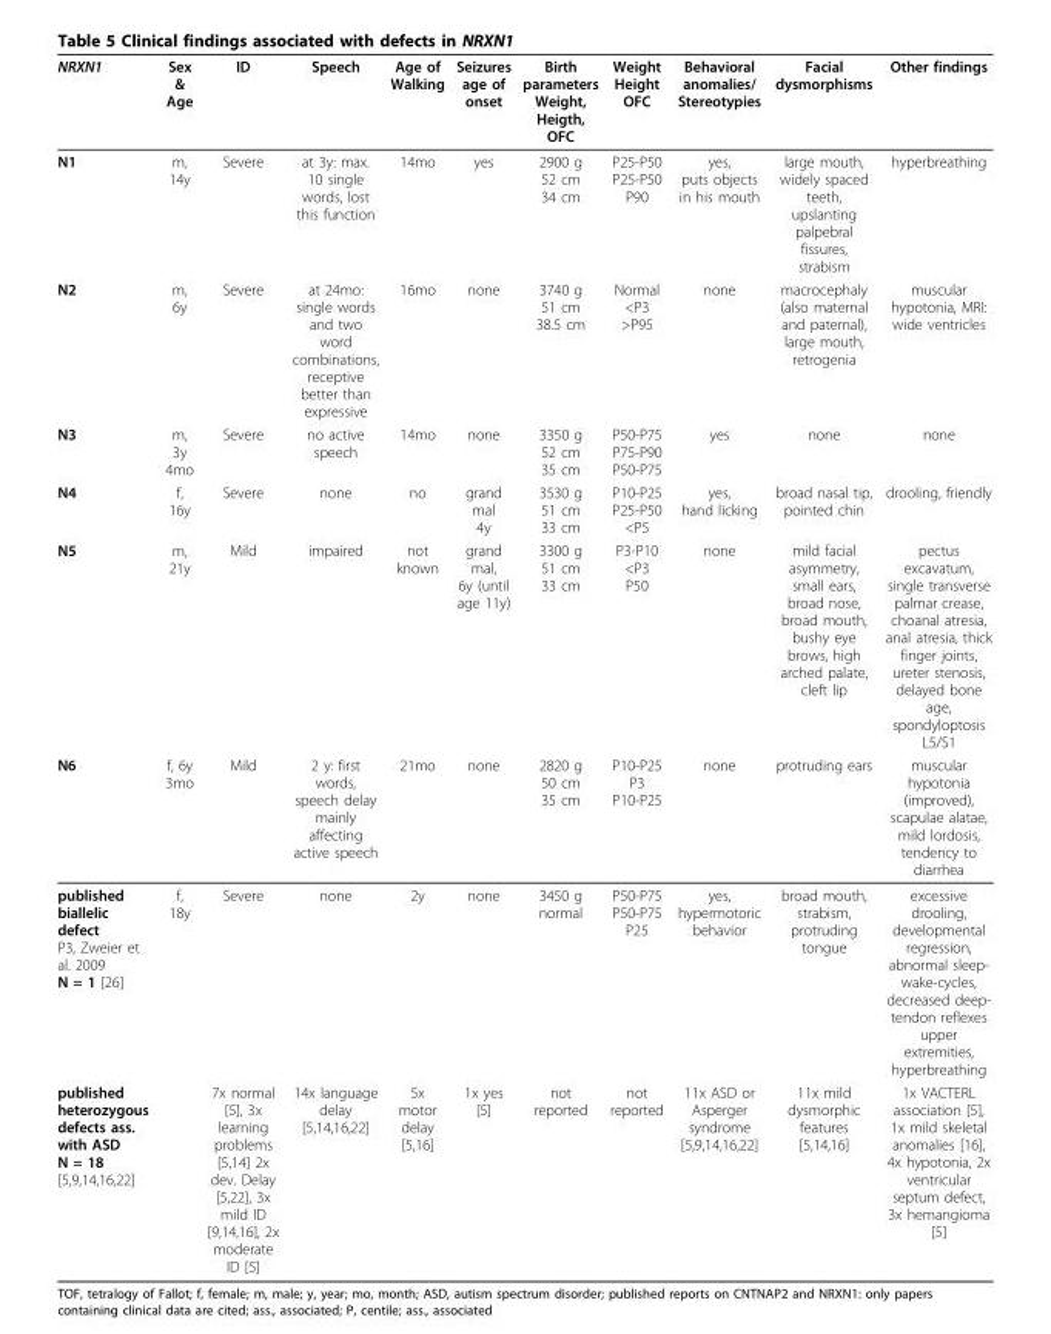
<table><thead><tr><td>NRXN1</td><td>Sex &amp; Age</td><td>ID</td><td>Speech</td><td>Age of Walking</td><td>Seizures age of onset</td><td>Birth parameters Weight, Heigth, OFC</td><td>Weight Height OFC</td><td>Behavioral anomalies/ Stereotypies</td><td>Facial dysmorphisms</td><td>Other findings</td></tr></thead><tbody><tr><td>N1</td><td>m, 14y</td><td>Severe</td><td>at 3y: max. 10 single words, lost this function</td><td>14mo</td><td>yes</td><td>2900 g 52 cm 34 cm</td><td>P25-P50 P25-P50 P90</td><td>yes, puts objects in his mouth</td><td>large mouth, widely spaced teeth, upslanting palpebral fissures, strabism</td><td>hyperbreathing</td></tr><tr><td>N2</td><td>m, 6y</td><td>Severe</td><td>at 24mo: single words and two word combinations, receptive better than expressive</td><td>16mo</td><td>none</td><td>3740 g 51 cm 38.5 cm</td><td>Normal &lt;P3 &gt;P95</td><td>none</td><td>macrocephaly (also maternal and paternal), large mouth, retrogenia</td><td>muscular hypotonia, MRI: wide ventricles</td></tr><tr><td>N3</td><td>m, 3y 4mo</td><td>Severe</td><td>no active speech</td><td>14mo</td><td>none</td><td>3350 g 52 cm 35 cm</td><td>P50-P75 P75-P90 P50-P75</td><td>yes</td><td>none</td><td>none</td></tr><tr><td>N4</td><td>f, 16y</td><td>Severe</td><td>none</td><td>no</td><td>grand mal 4y</td><td>3530 g 51 cm 33 cm</td><td>P10-P25 P25-P50 &lt;P5</td><td>yes, hand licking</td><td>broad nasal tip, pointed chin</td><td>drooling, friendly</td></tr><tr><td>N5</td><td>m, 21y</td><td>Mild</td><td>impaired</td><td>not known</td><td>grand mal, 6y (until age 11y)</td><td>3300 g 51 cm 33 cm</td><td>P3-P10 &lt;P3 P50</td><td>none</td><td>mild facial asymmetry, small ears, broad nose, broad mouth, bushy eye brows, high arched palate, cleft lip</td><td>pectus excavatum, single transverse palmar crease, choanal atresia, anal atresia, thick finger joints, ureter stenosis, delayed bone age, spondyloptosis L5/S1</td></tr><tr><td>N6</td><td>f, 6y 3mo</td><td>Mild</td><td>2 y: first words, speech delay mainly affecting active speech</td><td>21mo</td><td>none</td><td>2820 g 50 cm 35 cm</td><td>P10-P25 P3 P10-P25</td><td>none</td><td>protruding ears</td><td>muscular hypotonia (improved), scapulae alatae, mild lordosis, tendency to diarrhea</td></tr><tr><td>published biallelic defect P3, Zweier et al. 2009 N = 1 [26]</td><td>f, 18y</td><td>Severe</td><td>none</td><td>2y</td><td>none</td><td>3450 g normal</td><td>P50-P75 P50-P75 P25</td><td>yes, hypermotoric behavior</td><td>broad mouth, strabism, protruding tongue</td><td>excessive drooling, developmental regression, abnormal sleep- wake-cycles, decreased deep- tendon reflexes upper extremities, hyperbreathing</td></tr><tr><td>published heterozygous defects ass. with ASD N = 18 [5,9,14,16,22]</td><td></td><td>7x normal [5], 3x learning problems [5,14] 2x dev. Delay [5,22], 3x mild ID [9,14,16], 2x moderate ID [5]</td><td>14x language delay [5,14,16,22]</td><td>5x motor delay [5,16]</td><td>1x yes [5]</td><td>not reported</td><td>not reported</td><td>11x ASD or Asperger syndrome [5,9,14,16,22]</td><td>11x mild dysmorphic features [5,14,16]</td><td>1x VACTERL association [5], 1x mild skeletal anomalies [16], 4x hypotonia, 2x ventricular septum defect, 3x hemangioma [5]</td></tr></tbody></table>